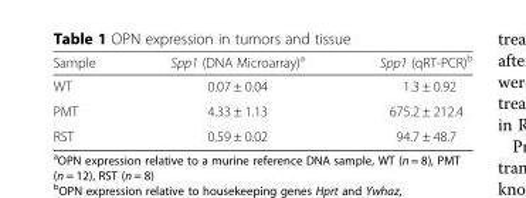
<table><thead><tr><td>Sample</td><td>Spp1 (DNA Microarray)<sup>a</sup></td><td>Spp1 (qRT-PCR)<sup>b</sup></td></tr></thead><tbody><tr><td>WT</td><td>0.07 ± 0.04</td><td>1.3 ± 0.92</td></tr><tr><td>PMT</td><td>4.33 ± 1.13</td><td>675.2 ± 212.4</td></tr><tr><td>RST</td><td>0.59 ± 0.02</td><td>94.7 ± 48.7</td></tr></tbody></table>